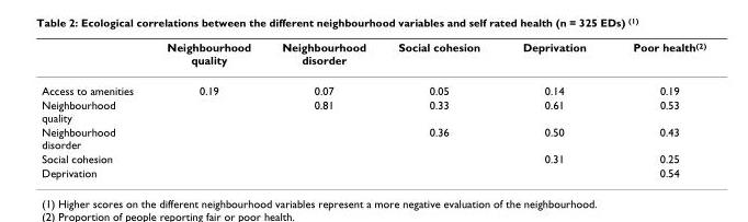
<table><thead><tr><td></td><td>Neighbourhood quality</td><td>Neighbourhood disorder</td><td>Social cohesion</td><td>Deprivation</td><td>Poor health<sup>(2)</sup></td></tr></thead><tbody><tr><td>Access to amenities</td><td>0.19</td><td>0.07</td><td>0.05</td><td>0.14</td><td>0.19</td></tr><tr><td>Neighbourhood quality</td><td></td><td>0.81</td><td>0.33</td><td>0.61</td><td>0.53</td></tr><tr><td>Neighbourhood disorder</td><td></td><td></td><td>0.36</td><td>0.50</td><td>0.43</td></tr><tr><td>Social cohesion</td><td></td><td></td><td></td><td>0.31</td><td>0.25</td></tr><tr><td>Deprivation</td><td></td><td></td><td></td><td></td><td>0.54</td></tr></tbody></table>